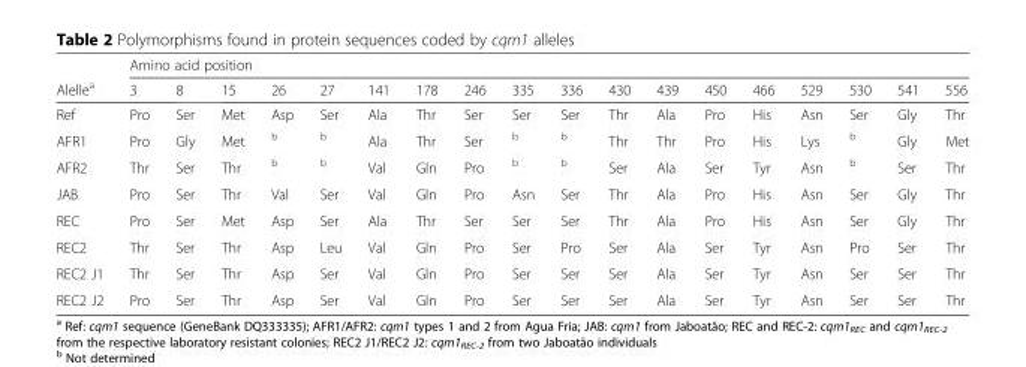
<table><thead><tr><td rowspan="2">Alelle<sup>a</sup></td><td colspan="18">Amino acid position</td></tr><tr><td>3</td><td>8</td><td>15</td><td>26</td><td>27</td><td>141</td><td>178</td><td>246</td><td>335</td><td>336</td><td>430</td><td>439</td><td>450</td><td>466</td><td>529</td><td>530</td><td>541</td><td>556</td></tr></thead><tbody><tr><td>Ref</td><td>Pro</td><td>Ser</td><td>Met</td><td>Asp</td><td>Ser</td><td>Ala</td><td>Thr</td><td>Ser</td><td>Ser</td><td>Ser</td><td>Thr</td><td>Ala</td><td>Pro</td><td>His</td><td>Asn</td><td>Ser</td><td>Gly</td><td>Thr</td></tr><tr><td>AFR1</td><td>Pro</td><td>Gly</td><td>Met</td><td><sup>b</sup></td><td><sup>b</sup></td><td>Ala</td><td>Thr</td><td>Ser</td><td><sup>b</sup></td><td><sup>b</sup></td><td>Thr</td><td>Thr</td><td>Pro</td><td>His</td><td>Lys</td><td><sup>b</sup></td><td>Gly</td><td>Met</td></tr><tr><td>AFR2</td><td>Thr</td><td>Ser</td><td>Thr</td><td><sup>b</sup></td><td><sup>b</sup></td><td>Val</td><td>Gln</td><td>Pro</td><td><sup>b</sup></td><td><sup>b</sup></td><td>Ser</td><td>Ala</td><td>Ser</td><td>Tyr</td><td>Asn</td><td><sup>b</sup></td><td>Ser</td><td>Thr</td></tr><tr><td>JAB</td><td>Pro</td><td>Ser</td><td>Thr</td><td>Val</td><td>Ser</td><td>Val</td><td>Gln</td><td>Pro</td><td>Asn</td><td>Ser</td><td>Thr</td><td>Ala</td><td>Pro</td><td>His</td><td>Asn</td><td>Ser</td><td>Gly</td><td>Thr</td></tr><tr><td>REC</td><td>Pro</td><td>Ser</td><td>Met</td><td>Asp</td><td>Ser</td><td>Ala</td><td>Thr</td><td>Ser</td><td>Ser</td><td>Ser</td><td>Thr</td><td>Ala</td><td>Pro</td><td>His</td><td>Asn</td><td>Ser</td><td>Gly</td><td>Thr</td></tr><tr><td>REC2</td><td>Thr</td><td>Ser</td><td>Thr</td><td>Asp</td><td>Leu</td><td>Val</td><td>Gln</td><td>Pro</td><td>Ser</td><td>Pro</td><td>Ser</td><td>Ala</td><td>Ser</td><td>Tyr</td><td>Asn</td><td>Pro</td><td>Ser</td><td>Thr</td></tr><tr><td>REC2 J1</td><td>Thr</td><td>Ser</td><td>Thr</td><td>Asp</td><td>Ser</td><td>Val</td><td>Gln</td><td>Pro</td><td>Ser</td><td>Ser</td><td>Ser</td><td>Ala</td><td>Ser</td><td>Tyr</td><td>Asn</td><td>Ser</td><td>Ser</td><td>Thr</td></tr><tr><td>REC2 J2</td><td>Pro</td><td>Ser</td><td>Thr</td><td>Asp</td><td>Ser</td><td>Val</td><td>Gln</td><td>Pro</td><td>Ser</td><td>Ser</td><td>Ser</td><td>Ala</td><td>Ser</td><td>Tyr</td><td>Asn</td><td>Ser</td><td>Ser</td><td>Thr</td></tr></tbody></table>